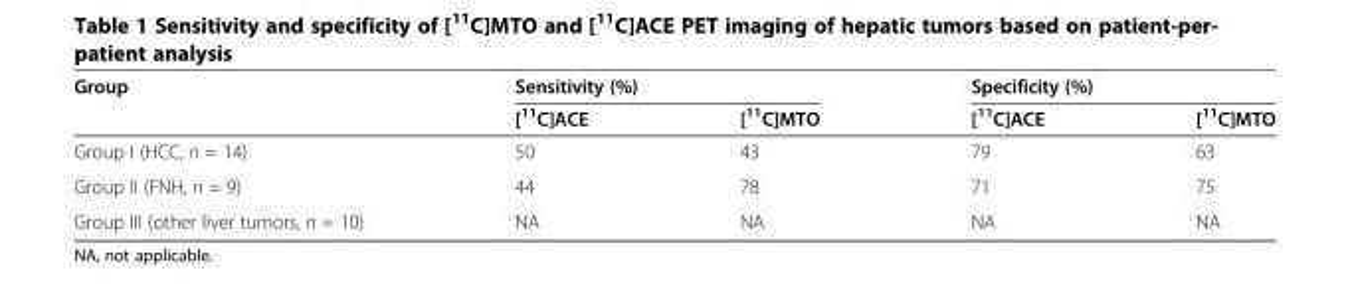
<table><thead><tr><td rowspan="2">Group</td><td colspan="2">Sensitivity (%)</td><td colspan="2">Specificity (%)</td></tr><tr><td>[<sup>11</sup>C]ACE</td><td>[<sup>11</sup>C]MTO</td><td>[<sup>11</sup>C]ACE</td><td>[<sup>11</sup>C]MTO</td></tr></thead><tbody><tr><td>Group I (HCC, n = 14)</td><td>50</td><td>43</td><td>79</td><td>63</td></tr><tr><td>Group II (FNH, n = 9)</td><td>44</td><td>78</td><td>71</td><td>75</td></tr><tr><td>Group III (other liver tumors, n = 10)</td><td>NA</td><td>NA</td><td>NA</td><td>NA</td></tr></tbody></table>